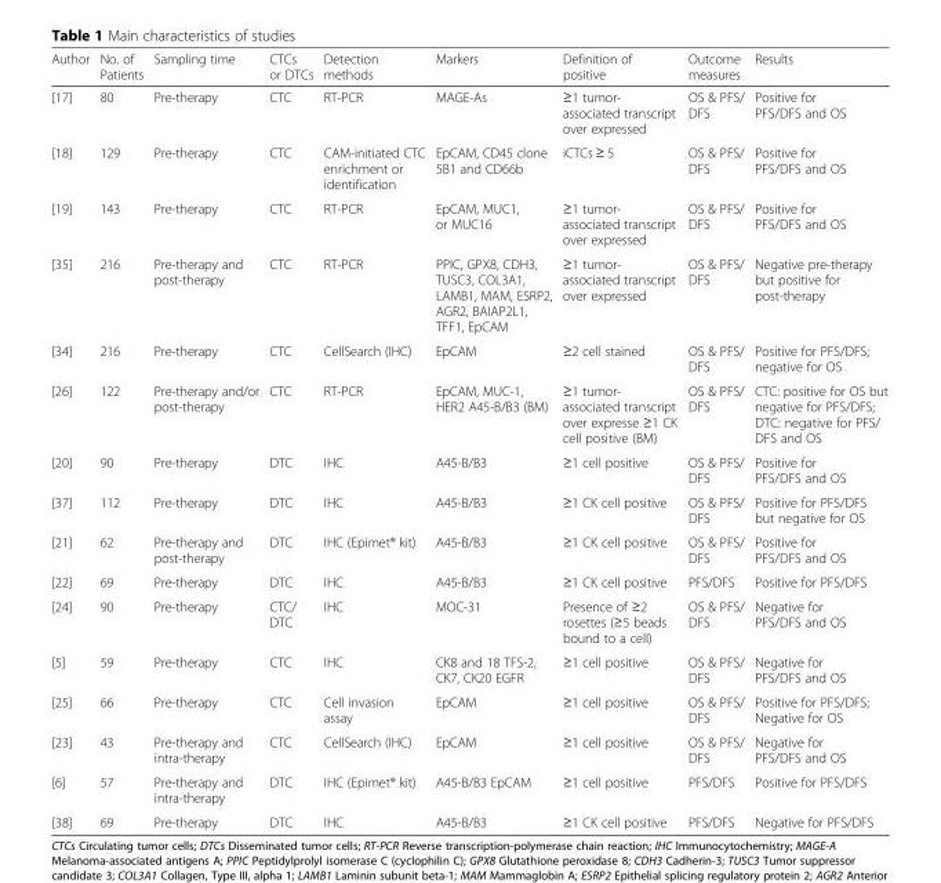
<table><thead><tr><td>Author</td><td>No. of Patients</td><td>Sampling time</td><td>CTCs or DTCs</td><td>Detection methods</td><td>Markers</td><td>Definition of positive</td><td>Outcome measures</td><td>Results</td></tr></thead><tbody><tr><td>[17]</td><td>80</td><td>Pre-therapy</td><td>CTC</td><td>RT-PCR</td><td>MAGE-As</td><td>≥1 tumor- associated transcript over expressed</td><td>OS &amp; PFS/ DFS</td><td>Positive for PFS/DFS and OS</td></tr><tr><td>[18]</td><td>129</td><td>Pre-therapy</td><td>CTC</td><td>CAM-initiated CTC enrichment or identification</td><td>EpCAM, CD45 clone 5B1 and CD66b</td><td>iCTCs ≥ 5</td><td>OS &amp; PFS/ DFS</td><td>Positive for PFS/DFS and OS</td></tr><tr><td>[19]</td><td>143</td><td>Pre-therapy</td><td>CTC</td><td>RT-PCR</td><td>EpCAM, MUC1, or MUC16</td><td>≥1 tumor- associated transcript over expressed</td><td>OS &amp; PFS/ DFS</td><td>Positive for PFS/DFS and OS</td></tr><tr><td>[35]</td><td>216</td><td>Pre-therapy and post-therapy</td><td>CTC</td><td>RT-PCR</td><td>PPIC, GPX8, CDH3, TUSC3, COL3A1, LAMB1, MAM, ESRP2, AGR2, BAIAP2L1, TFF1, EpCAM</td><td>≥1 tumor- associated transcript over expressed</td><td>OS &amp; PFS/ DFS</td><td>Negative pre-therapy but positive for post-therapy</td></tr><tr><td>[34]</td><td>216</td><td>Pre-therapy</td><td>CTC</td><td>CellSearch (IHC)</td><td>EpCAM</td><td>≥2 cell stained</td><td>OS &amp; PFS/ DFS</td><td>Positive for PFS/DFS; negative for OS</td></tr><tr><td>[26]</td><td>122</td><td>Pre-therapy and/or post-therapy</td><td>CTC</td><td>RT-PCR</td><td>EpCAM, MUC-1, HER2 A45-B/B3 (BM)</td><td>≥1 tumor- associated transcript over expresse ≥1 CK cell positive (BM)</td><td>OS &amp; PFS/ DFS</td><td>CTC: positive for OS but negative for PFS/DFS; DTC: negative for PFS/ DFS and OS</td></tr><tr><td>[20]</td><td>90</td><td>Pre-therapy</td><td>DTC</td><td>IHC</td><td>A45-B/B3</td><td>≥1 cell positive</td><td>OS &amp; PFS/ DFS</td><td>Positive for PFS/DFS and OS</td></tr><tr><td>[37]</td><td>112</td><td>Pre-therapy</td><td>DTC</td><td>IHC</td><td>A45-B/B3</td><td>≥1 CK cell positive</td><td>OS &amp; PFS/ DFS</td><td>Positive for PFS/DFS but negative for OS</td></tr><tr><td>[21]</td><td>62</td><td>Pre-therapy and post-therapy</td><td>DTC</td><td>IHC (Epimet® kit)</td><td>A45-B/B3</td><td>≥1 CK cell positive</td><td>OS &amp; PFS/ DFS</td><td>Positive for PFS/DFS and OS</td></tr><tr><td>[22]</td><td>69</td><td>Pre-therapy</td><td>DTC</td><td>IHC</td><td>A45-B/B3</td><td>≥1 CK cell positive</td><td>PFS/DFS</td><td>Positive for PFS/DFS</td></tr><tr><td>[24]</td><td>90</td><td>Pre-therapy</td><td>CTC/ DTC</td><td>IHC</td><td>MOC-31</td><td>Presence of ≥2 rosettes (≥5 beads bound to a cell)</td><td>OS &amp; PFS/ DFS</td><td>Negative for PFS/DFS and OS</td></tr><tr><td>[5]</td><td>59</td><td>Pre-therapy</td><td>CTC</td><td>IHC</td><td>CK8 and 18 TFS-2, CK7, CK20 EGFR</td><td>≥1 cell positive</td><td>OS &amp; PFS/ DFS</td><td>Negative for PFS/DFS and OS</td></tr><tr><td>[25]</td><td>66</td><td>Pre-therapy</td><td>CTC</td><td>Cell invasion assay</td><td>EpCAM</td><td>≥1 cell positive</td><td>OS &amp; PFS/ DFS</td><td>Positive for PFS/DFS; Negative for OS</td></tr><tr><td>[23]</td><td>43</td><td>Pre-therapy and intra-therapy</td><td>CTC</td><td>CellSearch (IHC)</td><td>EpCAM</td><td>≥1 cell positive</td><td>OS &amp; PFS/ DFS</td><td>Negative for PFS/DFS and OS</td></tr><tr><td>[6]</td><td>57</td><td>Pre-therapy and intra-therapy</td><td>DTC</td><td>IHC (Epimet® kit)</td><td>A45-B/B3 EpCAM</td><td>≥1 cell positive</td><td>PFS/DFS</td><td>Positive for PFS/DFS</td></tr><tr><td>[38]</td><td>69</td><td>Pre-therapy</td><td>DTC</td><td>IHC</td><td>A45-B/B3</td><td>≥1 CK cell positive</td><td>PFS/DFS</td><td>Negative for PFS/DFS</td></tr></tbody></table>